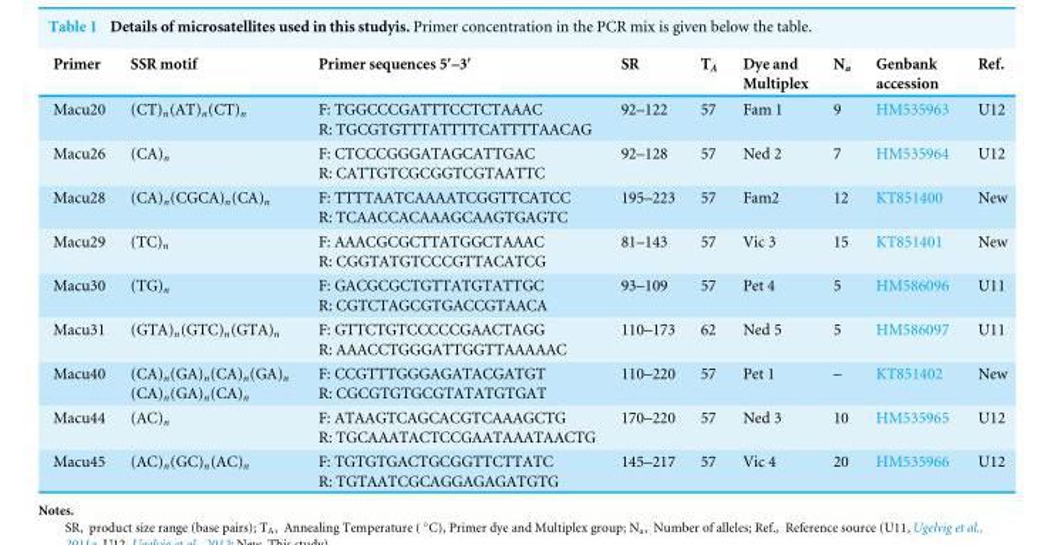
<table><thead><tr><td>Primer</td><td>SSR motif</td><td>Primer sequences 5′–3′</td><td>SR</td><td>T<sub>A</sub></td><td>Dye and Multiplex</td><td>N<sub>a</sub></td><td>Genbank accession</td><td>Ref.</td></tr></thead><tbody><tr><td>Macu20</td><td>(CT)<sub>n</sub>(AT)<sub>n</sub>(CT)<sub>n</sub></td><td>F: TGGCCCGATTTCCTCTAAAC R: TGCGTGTTTATTTTCATTTTAACAG</td><td>92–122</td><td>57</td><td>Fam 1</td><td>9</td><td>HM535963</td><td>U12</td></tr><tr><td>Macu26</td><td>(CA)<sub>n</sub></td><td>F: CTCCCGGGATAGCATTGAC R: CATTGTCGCGGTCGTAATTC</td><td>92–128</td><td>57</td><td>Ned 2</td><td>7</td><td>HM535964</td><td>U12</td></tr><tr><td>Macu28</td><td>(CA)<sub>n</sub>(CGCA)<sub>n</sub>(CA)<sub>n</sub></td><td>F: TTTTAATCAAAATCGGTTCATCC R: TCAACCACAAAGCAAGTGAGTC</td><td>195–223</td><td>57</td><td>Fam2</td><td>12</td><td>KT851400</td><td>New</td></tr><tr><td>Macu29</td><td>(TC)<sub>n</sub></td><td>F: AAACGCGCTTATGGCTAAAC R: CGGTATGTCCCGTTACATCG</td><td>81–143</td><td>57</td><td>Vic 3</td><td>15</td><td>KT851401</td><td>New</td></tr><tr><td>Macu30</td><td>(TG)<sub>n</sub></td><td>F: GACGCGCTGTTATGTATTGC R: CGTCTAGCGTGACCGTAACA</td><td>93–109</td><td>57</td><td>Pet 4</td><td>5</td><td>HM586096</td><td>U11</td></tr><tr><td>Macu31</td><td>(GTA)<sub>n</sub>(GTC)<sub>n</sub>(GTA)<sub>n</sub></td><td>F: GTTCTGTCCCCCGAACTAGG R: AAACCTGGGATTGGTTAAAAAC</td><td>110–173</td><td>62</td><td>Ned 5</td><td>5</td><td>HM586097</td><td>U11</td></tr><tr><td>Macu40</td><td>(CA)<sub>n</sub>(GA)<sub>n</sub>(CA)<sub>n</sub>(GA)<sub>n</sub> (CA)<sub>n</sub>(GA)<sub>n</sub>(CA)<sub>n</sub></td><td>F: CCGTTTGGGAGATACGATGT R: CGCGTGTGCGTATATGTGAT</td><td>110–220</td><td>57</td><td>Pet 1</td><td>–</td><td>KT851402</td><td>New</td></tr><tr><td>Macu44</td><td>(AC)<sub>n</sub></td><td>F: ATAAGTCAGCACGTCAAAGCTG R: TGCAAATACTCCGAATAAATAACTG</td><td>170–220</td><td>57</td><td>Ned 3</td><td>10</td><td>HM535965</td><td>U12</td></tr><tr><td>Macu45</td><td>(AC)<sub>n</sub>(GC)<sub>n</sub>(AC)<sub>n</sub></td><td>F: TGTGTGACTGCGGTTCTTATC R: TGTAATCGCAGGAGAGATGTG</td><td>145–217</td><td>57</td><td>Vic 4</td><td>20</td><td>HM535966</td><td>U12</td></tr></tbody></table>